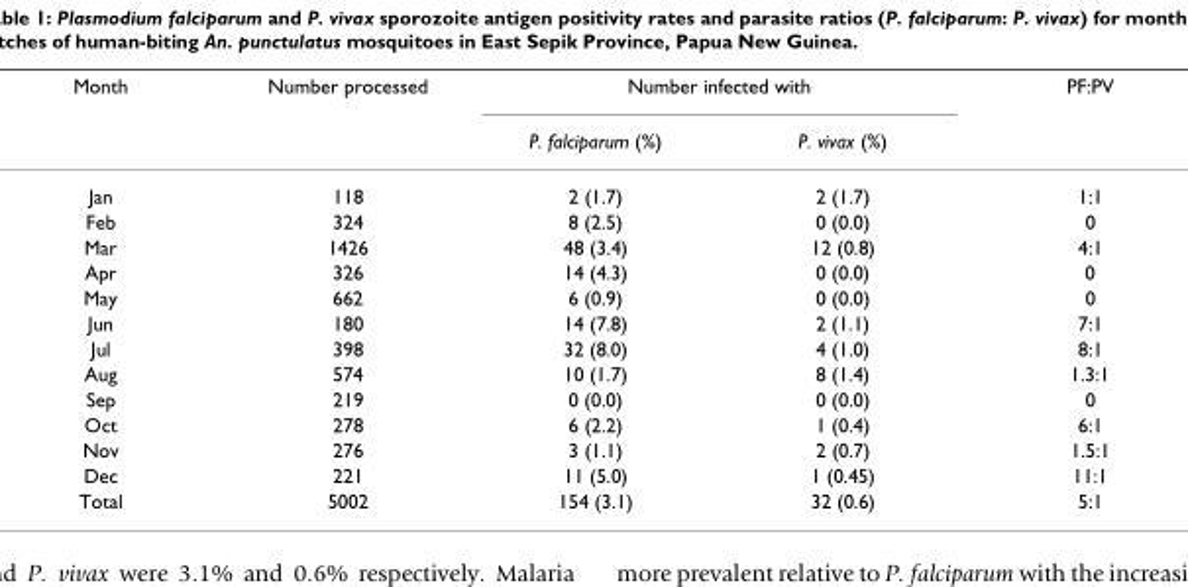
<table><thead><tr><td rowspan="2">Month</td><td rowspan="2">Number processed</td><td colspan="2">Number infected with</td><td rowspan="2">PF:PV</td></tr><tr><td>P. falciparum (%)</td><td>P. vivax (%)</td></tr></thead><tbody><tr><td>Jan</td><td>118</td><td>2 (1.7)</td><td>2 (1.7)</td><td>1:1</td></tr><tr><td>Feb</td><td>324</td><td>8 (2.5)</td><td>0 (0.0)</td><td>0</td></tr><tr><td>Mar</td><td>1426</td><td>48 (3.4)</td><td>12 (0.8)</td><td>4:1</td></tr><tr><td>Apr</td><td>326</td><td>14 (4.3)</td><td>0 (0.0)</td><td>0</td></tr><tr><td>May</td><td>662</td><td>6 (0.9)</td><td>0 (0.0)</td><td>0</td></tr><tr><td>Jun</td><td>180</td><td>14 (7.8)</td><td>2 (1.1)</td><td>7:1</td></tr><tr><td>Jul</td><td>398</td><td>32 (8.0)</td><td>4 (1.0)</td><td>8:1</td></tr><tr><td>Aug</td><td>574</td><td>10 (1.7)</td><td>8 (1.4)</td><td>1.3:1</td></tr><tr><td>Sep</td><td>219</td><td>0 (0.0)</td><td>0 (0.0)</td><td>0</td></tr><tr><td>Oct</td><td>278</td><td>6 (2.2)</td><td>1 (0.4)</td><td>6:1</td></tr><tr><td>Nov</td><td>276</td><td>3 (1.1)</td><td>2 (0.7)</td><td>1.5:1</td></tr><tr><td>Dec</td><td>221</td><td>11 (5.0)</td><td>1 (0.45)</td><td>11:1</td></tr><tr><td>Total</td><td>5002</td><td>154 (3.1)</td><td>32 (0.6)</td><td>5:1</td></tr></tbody></table>